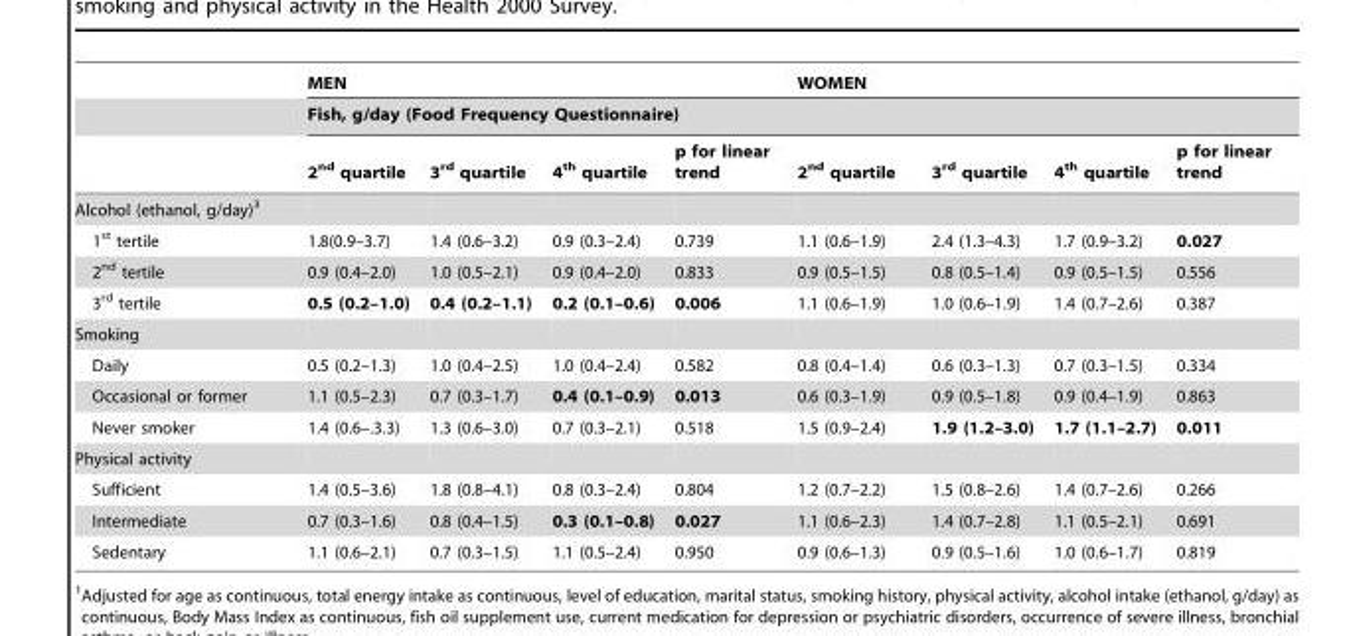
<table><thead><tr><td rowspan="3"></td><td colspan="4">MEN</td><td colspan="4">WOMEN</td></tr><tr><td colspan="8">Fish, g/day (Food Frequency Questionnaire)</td></tr><tr><td>2<sup>nd</sup> quartile</td><td>3<sup>rd</sup> quartile</td><td>4<sup>th</sup> quartile</td><td>p for linear trend</td><td>2<sup>nd</sup> quartile</td><td>3<sup>rd</sup> quartile</td><td>4<sup>th</sup> quartile</td><td>p for linear trend</td></tr></thead><tbody><tr><td colspan="9">Alcohol (ethanol, g/day)<sup>3</sup></td></tr><tr><td>1<sup>st</sup> tertile</td><td>1.8(0.9–3.7)</td><td>1.4 (0.6–3.2)</td><td>0.9 (0.3–2.4)</td><td>0.739</td><td>1.1 (0.6–1.9)</td><td>2.4 (1.3–4.3)</td><td>1.7 (0.9–3.2)</td><td>0.027</td></tr><tr><td>2<sup>nd</sup> tertile</td><td>0.9 (0.4–2.0)</td><td>1.0 (0.5–2.1)</td><td>0.9 (0.4–2.0)</td><td>0.833</td><td>0.9 (0.5–1.5)</td><td>0.8 (0.5–1.4)</td><td>0.9 (0.5–1.5)</td><td>0.556</td></tr><tr><td>3<sup>rd</sup> tertile</td><td>0.5 (0.2–1.0)</td><td>0.4 (0.2–1.1)</td><td>0.2 (0.1–0.6)</td><td>0.006</td><td>1.1 (0.6–1.9)</td><td>1.0 (0.6–1.9)</td><td>1.4 (0.7–2.6)</td><td>0.387</td></tr><tr><td colspan="9">Smoking</td></tr><tr><td>Daily</td><td>0.5 (0.2–1.3)</td><td>1.0 (0.4–2.5)</td><td>1.0 (0.4–2.4)</td><td>0.582</td><td>0.8 (0.4–1.4)</td><td>0.6 (0.3–1.3)</td><td>0.7 (0.3–1.5)</td><td>0.334</td></tr><tr><td>Occasional or former</td><td>1.1 (0.5–2.3)</td><td>0.7 (0.3–1.7)</td><td>0.4 (0.1–0.9)</td><td>0.013</td><td>0.6 (0.3–1.9)</td><td>0.9 (0.5–1.8)</td><td>0.9 (0.4–1.9)</td><td>0.863</td></tr><tr><td>Never smoker</td><td>1.4 (0.6–.3.3)</td><td>1.3 (0.6–3.0)</td><td>0.7 (0.3–2.1)</td><td>0.518</td><td>1.5 (0.9–2.4)</td><td>1.9 (1.2–3.0)</td><td>1.7 (1.1–2.7)</td><td>0.011</td></tr><tr><td colspan="9">Physical activity</td></tr><tr><td>Sufficient</td><td>1.4 (0.5–3.6)</td><td>1.8 (0.8–4.1)</td><td>0.8 (0.3–2.4)</td><td>0.804</td><td>1.2 (0.7–2.2)</td><td>1.5 (0.8–2.6)</td><td>1.4 (0.7–2.6)</td><td>0.266</td></tr><tr><td>Intermediate</td><td>0.7 (0.3–1.6)</td><td>0.8 (0.4–1.5)</td><td>0.3 (0.1–0.8)</td><td>0.027</td><td>1.1 (0.6–2.3)</td><td>1.4 (0.7–2.8)</td><td>1.1 (0.5–2.1)</td><td>0.691</td></tr><tr><td>Sedentary</td><td>1.1 (0.6–2.1)</td><td>0.7 (0.3–1.5)</td><td>1.1 (0.5–2.4)</td><td>0.950</td><td>0.9 (0.6–1.3)</td><td>0.9 (0.5–1.6)</td><td>1.0 (0.6–1.7)</td><td>0.819</td></tr></tbody></table>